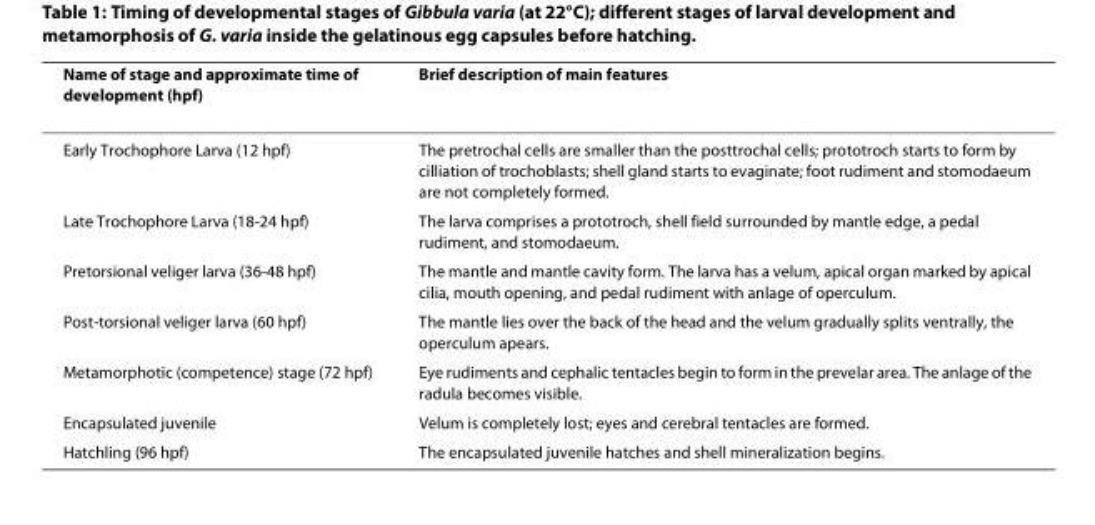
<table><thead><tr><td>Name of stage and approximate time of development (hpf)</td><td>Brief description of main features</td></tr></thead><tbody><tr><td>Early Trochophore Larva (12 hpf)</td><td>The pretrochal cells are smaller than the posttrochal cells; prototroch starts to form by cilliation of trochoblasts; shell gland starts to evaginate; foot rudiment and stomodaeum are not completely formed.</td></tr><tr><td>Late Trochophore Larva (18-24 hpf)</td><td>The larva comprises a prototroch, shell field surrounded by mantle edge, a pedal rudiment, and stomodaeum.</td></tr><tr><td>Pretorsional veliger larva (36-48 hpf)</td><td>The mantle and mantle cavity form. The larva has a velum, apical organ marked by apical cilia, mouth opening, and pedal rudiment with anlage of operculum.</td></tr><tr><td>Post-torsional veliger larva (60 hpf)</td><td>The mantle lies over the back of the head and the velum gradually splits ventrally, the operculum apears.</td></tr><tr><td>Metamorphotic (competence) stage (72 hpf)</td><td>Eye rudiments and cephalic tentacles begin to form in the prevelar area. The anlage of the radula becomes visible.</td></tr><tr><td>Encapsulated juvenile</td><td>Velum is completely lost; eyes and cerebral tentacles are formed.</td></tr><tr><td>Hatchling (96 hpf)</td><td>The encapsulated juvenile hatches and shell mineralization begins.</td></tr></tbody></table>